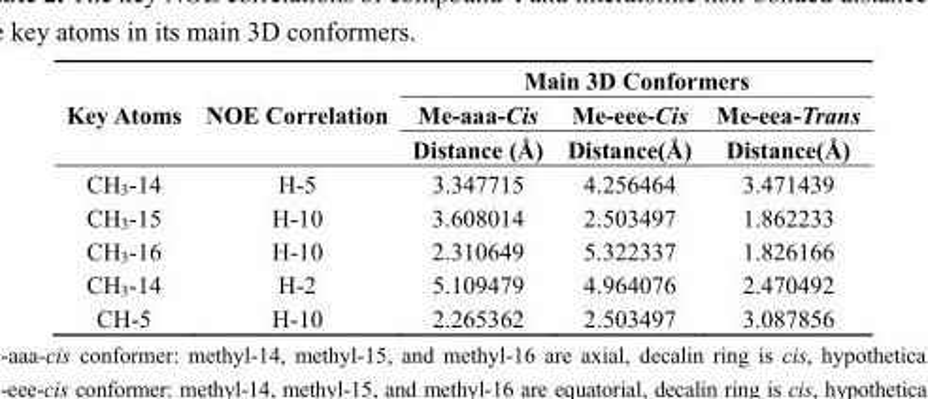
<table><thead><tr><td rowspan="3">Key Atoms</td><td rowspan="3">NOE Correlation</td><td colspan="3">Main 3D Conformers</td></tr><tr><td rowspan="2">Me-aaa-Cis Distance (Å)</td><td rowspan="2">Me-eee-Cis Distance(Å)</td><td rowspan="2">Me-eea-Trans Distance(Å)</td></tr><tr></tr></thead><tbody><tr><td>CH<sub>3</sub>-14</td><td>H-5</td><td>3.347715</td><td>4.256464</td><td>3.471439</td></tr><tr><td>CH<sub>3</sub>-15</td><td>H-10</td><td>3.608014</td><td>2.503497</td><td>1.862233</td></tr><tr><td>CH<sub>3</sub>-16</td><td>H-10</td><td>2.310649</td><td>5.322337</td><td>1.826166</td></tr><tr><td>CH<sub>3</sub>-14</td><td>H-2</td><td>5.109479</td><td>4.964076</td><td>2.470492</td></tr><tr><td>CH-5</td><td>H-10</td><td>2.265362</td><td>2.503497</td><td>3.087856</td></tr></tbody></table>